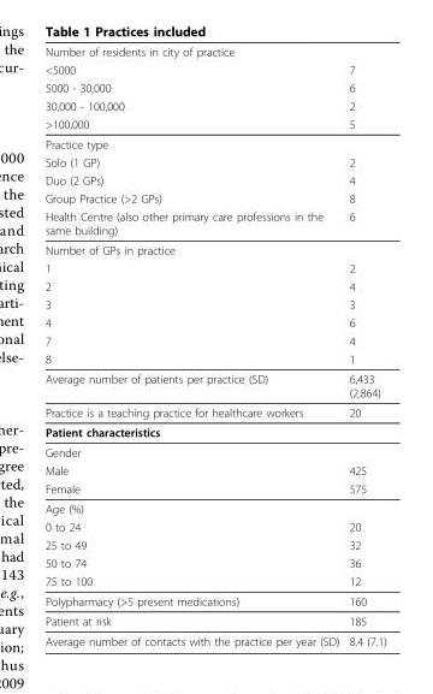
<table><thead><tr><td rowspan="5">Number of residents in city of practice &lt;5000 5000 - 30,000 30,000 - 100,000 &gt;100,000</td><td rowspan="5">7 6 2 5</td></tr><tr></tr><tr></tr><tr></tr><tr></tr></thead><tbody><tr><td colspan="2">Practice type</td></tr><tr><td>Solo (1 GP)</td><td>2</td></tr><tr><td>Duo (2 GPs)</td><td>4</td></tr><tr><td>Group Practice (&gt;2 GPs)</td><td>8</td></tr><tr><td>Health Centre (also other primary care professions in the same building)</td><td>6</td></tr><tr><td colspan="2">Number of GPs in practice</td></tr><tr><td>1</td><td>2</td></tr><tr><td>2</td><td>4</td></tr><tr><td>3</td><td>3</td></tr><tr><td>4</td><td>6</td></tr><tr><td>7</td><td>4</td></tr><tr><td>8</td><td>1</td></tr><tr><td>Average number of patients per practice (SD)</td><td>6,433 (2,864)</td></tr><tr><td>Practice is a teaching practice for healthcare workers</td><td>20</td></tr><tr><td colspan="2">Patient characteristics</td></tr><tr><td colspan="2">Gender</td></tr><tr><td>Male</td><td>425</td></tr><tr><td>Female</td><td>575</td></tr><tr><td colspan="2">Age (%)</td></tr><tr><td>0 to 24</td><td>20</td></tr><tr><td>25 to 49</td><td>32</td></tr><tr><td>50 to 74</td><td>36</td></tr><tr><td>75 to 100</td><td>12</td></tr><tr><td>Polypharmacy (&gt;5 present medications)</td><td>160</td></tr><tr><td>Patient at risk</td><td>185</td></tr><tr><td>Average number of contacts with the practice per year (SD)</td><td>8.4 (7.1)</td></tr></tbody></table>